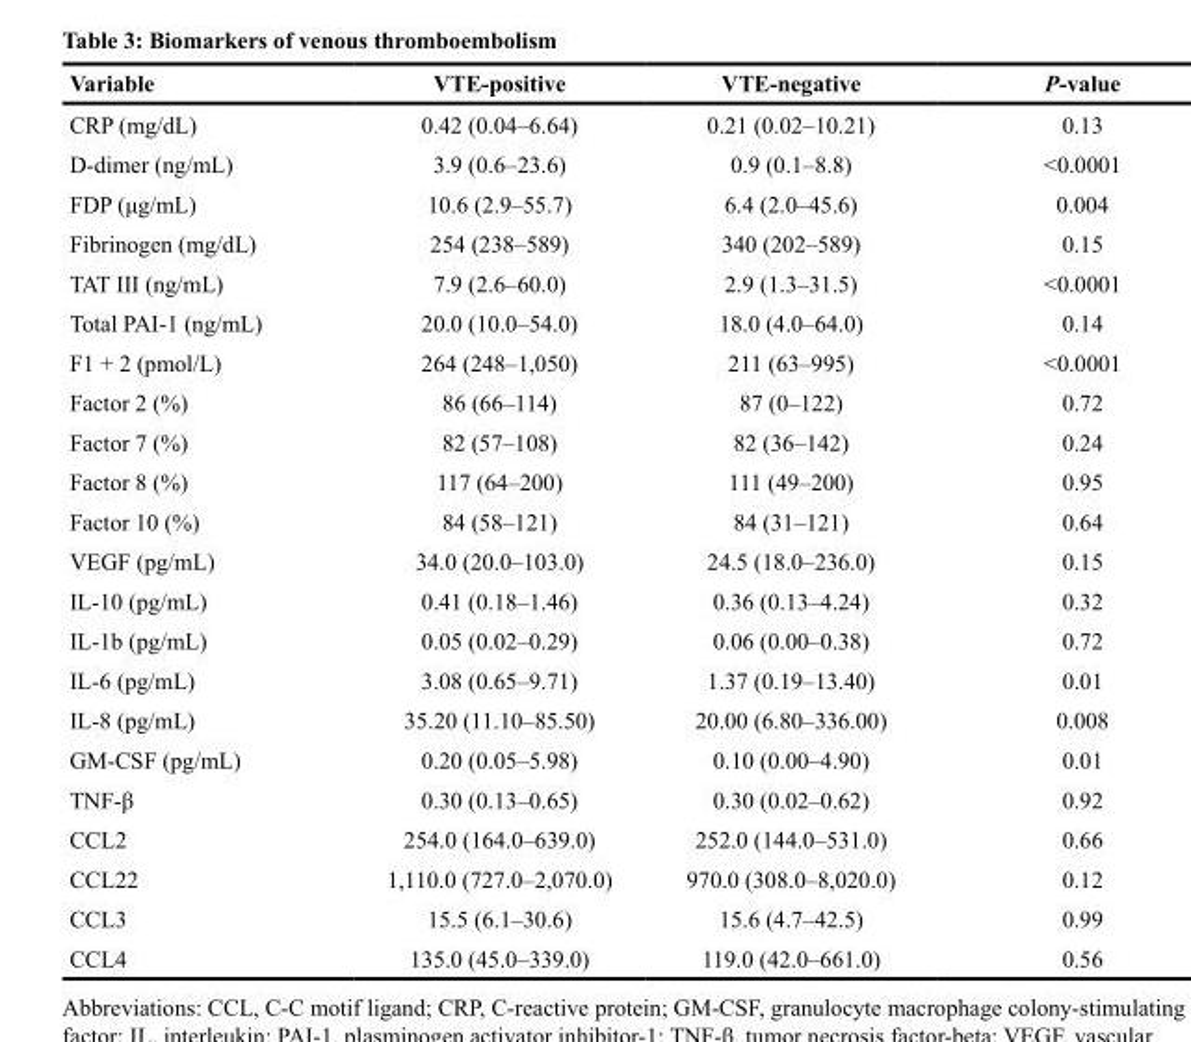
<table><thead><tr><td>Variable</td><td>VTE-positive</td><td>VTE-negative</td><td>P-value</td></tr></thead><tbody><tr><td>CRP (mg/dL)</td><td>0.42 (0.04–6.64)</td><td>0.21 (0.02–10.21)</td><td>0.13</td></tr><tr><td>D-dimer (ng/mL)</td><td>3.9 (0.6–23.6)</td><td>0.9 (0.1–8.8)</td><td>&lt;0.0001</td></tr><tr><td>FDP (μg/mL)</td><td>10.6 (2.9–55.7)</td><td>6.4 (2.0–45.6)</td><td>0.004</td></tr><tr><td>Fibrinogen (mg/dL)</td><td>254 (238–589)</td><td>340 (202–589)</td><td>0.15</td></tr><tr><td>TAT III (ng/mL)</td><td>7.9 (2.6–60.0)</td><td>2.9 (1.3–31.5)</td><td>&lt;0.0001</td></tr><tr><td>Total PAI-1 (ng/mL)</td><td>20.0 (10.0–54.0)</td><td>18.0 (4.0–64.0)</td><td>0.14</td></tr><tr><td>F1 + 2 (pmol/L)</td><td>264 (248–1,050)</td><td>211 (63–995)</td><td>&lt;0.0001</td></tr><tr><td>Factor 2 (%)</td><td>86 (66–114)</td><td>87 (0–122)</td><td>0.72</td></tr><tr><td>Factor 7 (%)</td><td>82 (57–108)</td><td>82 (36–142)</td><td>0.24</td></tr><tr><td>Factor 8 (%)</td><td>117 (64–200)</td><td>111 (49–200)</td><td>0.95</td></tr><tr><td>Factor 10 (%)</td><td>84 (58–121)</td><td>84 (31–121)</td><td>0.64</td></tr><tr><td>VEGF (pg/mL)</td><td>34.0 (20.0–103.0)</td><td>24.5 (18.0–236.0)</td><td>0.15</td></tr><tr><td>IL-10 (pg/mL)</td><td>0.41 (0.18–1.46)</td><td>0.36 (0.13–4.24)</td><td>0.32</td></tr><tr><td>IL-1b (pg/mL)</td><td>0.05 (0.02–0.29)</td><td>0.06 (0.00–0.38)</td><td>0.72</td></tr><tr><td>IL-6 (pg/mL)</td><td>3.08 (0.65–9.71)</td><td>1.37 (0.19–13.40)</td><td>0.01</td></tr><tr><td>IL-8 (pg/mL)</td><td>35.20 (11.10–85.50)</td><td>20.00 (6.80–336.00)</td><td>0.008</td></tr><tr><td>GM-CSF (pg/mL)</td><td>0.20 (0.05–5.98)</td><td>0.10 (0.00–4.90)</td><td>0.01</td></tr><tr><td>TNF-β</td><td>0.30 (0.13–0.65)</td><td>0.30 (0.02–0.62)</td><td>0.92</td></tr><tr><td>CCL2</td><td>254.0 (164.0–639.0)</td><td>252.0 (144.0–531.0)</td><td>0.66</td></tr><tr><td>CCL22</td><td>1,110.0 (727.0–2,070.0)</td><td>970.0 (308.0–8,020.0)</td><td>0.12</td></tr><tr><td>CCL3</td><td>15.5 (6.1–30.6)</td><td>15.6 (4.7–42.5)</td><td>0.99</td></tr><tr><td>CCL4</td><td>135.0 (45.0–339.0)</td><td>119.0 (42.0–661.0)</td><td>0.56</td></tr></tbody></table>